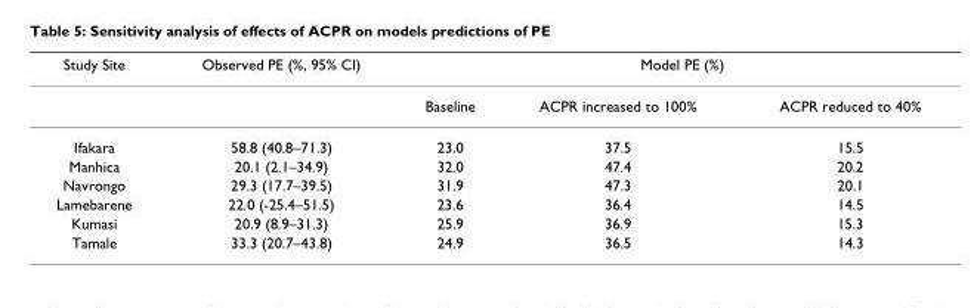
<table><thead><tr><td rowspan="2">Study Site</td><td rowspan="2">Observed PE (%, 95% CI)</td><td colspan="3">Model PE (%)</td></tr><tr><td>Baseline</td><td>ACPR increased to 100%</td><td>ACPR reduced to 40%</td></tr></thead><tbody><tr><td>Ifakara</td><td>58.8 (40.8–71.3)</td><td>23.0</td><td>37.5</td><td>15.5</td></tr><tr><td>Manhica</td><td>20.1 (2.1–34.9)</td><td>32.0</td><td>47.4</td><td>20.2</td></tr><tr><td>Navrongo</td><td>29.3 (17.7–39.5)</td><td>31.9</td><td>47.3</td><td>20.1</td></tr><tr><td>Lamebarene</td><td>22.0 (-25.4–51.5)</td><td>23.6</td><td>36.4</td><td>14.5</td></tr><tr><td>Kumasi</td><td>20.9 (8.9–31.3)</td><td>25.9</td><td>36.9</td><td>15.3</td></tr><tr><td>Tamale</td><td>33.3 (20.7–43.8)</td><td>24.9</td><td>36.5</td><td>14.3</td></tr></tbody></table>